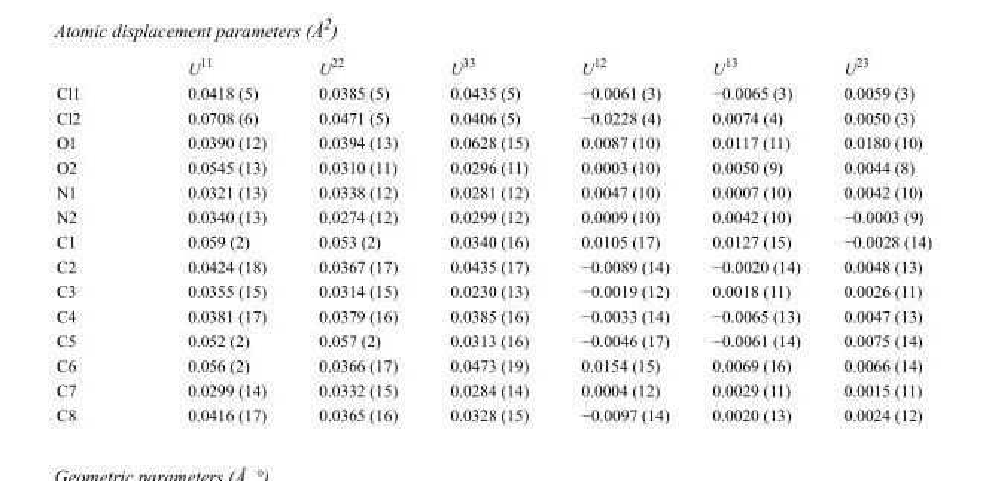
<table><thead><tr><td></td><td>U<sup>11</sup></td><td>U<sup>22</sup></td><td>U<sup>33</sup></td><td>U<sup>12</sup></td><td>U<sup>13</sup></td><td>U<sup>23</sup></td></tr></thead><tbody><tr><td>Cl1</td><td>0.0418 (5)</td><td>0.0385 (5)</td><td>0.0435 (5)</td><td>−0.0061 (3)</td><td>−0.0065 (3)</td><td>0.0059 (3)</td></tr><tr><td>Cl2</td><td>0.0708 (6)</td><td>0.0471 (5)</td><td>0.0406 (5)</td><td>−0.0228 (4)</td><td>0.0074 (4)</td><td>0.0050 (3)</td></tr><tr><td>O1</td><td>0.0390 (12)</td><td>0.0394 (13)</td><td>0.0628 (15)</td><td>0.0087 (10)</td><td>0.0117 (11)</td><td>0.0180 (10)</td></tr><tr><td>O2</td><td>0.0545 (13)</td><td>0.0310 (11)</td><td>0.0296 (11)</td><td>0.0003 (10)</td><td>0.0050 (9)</td><td>0.0044 (8)</td></tr><tr><td>N1</td><td>0.0321 (13)</td><td>0.0338 (12)</td><td>0.0281 (12)</td><td>0.0047 (10)</td><td>0.0007 (10)</td><td>0.0042 (10)</td></tr><tr><td>N2</td><td>0.0340 (13)</td><td>0.0274 (12)</td><td>0.0299 (12)</td><td>0.0009 (10)</td><td>0.0042 (10)</td><td>−0.0003 (9)</td></tr><tr><td>C1</td><td>0.059 (2)</td><td>0.053 (2)</td><td>0.0340 (16)</td><td>0.0105 (17)</td><td>0.0127 (15)</td><td>−0.0028 (14)</td></tr><tr><td>C2</td><td>0.0424 (18)</td><td>0.0367 (17)</td><td>0.0435 (17)</td><td>−0.0089 (14)</td><td>−0.0020 (14)</td><td>0.0048 (13)</td></tr><tr><td>C3</td><td>0.0355 (15)</td><td>0.0314 (15)</td><td>0.0230 (13)</td><td>−0.0019 (12)</td><td>0.0018 (11)</td><td>0.0026 (11)</td></tr><tr><td>C4</td><td>0.0381 (17)</td><td>0.0379 (16)</td><td>0.0385 (16)</td><td>−0.0033 (14)</td><td>−0.0065 (13)</td><td>0.0047 (13)</td></tr><tr><td>C5</td><td>0.052 (2)</td><td>0.057 (2)</td><td>0.0313 (16)</td><td>−0.0046 (17)</td><td>−0.0061 (14)</td><td>0.0075 (14)</td></tr><tr><td>C6</td><td>0.056 (2)</td><td>0.0366 (17)</td><td>0.0473 (19)</td><td>0.0154 (15)</td><td>0.0069 (16)</td><td>0.0066 (14)</td></tr><tr><td>C7</td><td>0.0299 (14)</td><td>0.0332 (15)</td><td>0.0284 (14)</td><td>0.0004 (12)</td><td>0.0029 (11)</td><td>0.0015 (11)</td></tr><tr><td>C8</td><td>0.0416 (17)</td><td>0.0365 (16)</td><td>0.0328 (15)</td><td>−0.0097 (14)</td><td>0.0020 (13)</td><td>0.0024 (12)</td></tr></tbody></table>